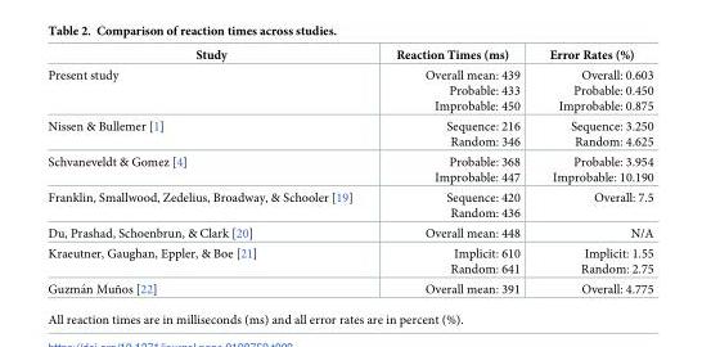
<table><thead><tr><td>Study</td><td>Reaction Times (ms)</td><td>Error Rates (%)</td></tr></thead><tbody><tr><td>Present study</td><td>Overall mean: 439 Probable: 433 Improbable: 450</td><td>Overall: 0.603 Probable: 0.450 Improbable: 0.875</td></tr><tr><td>Nissen &amp; Bullemer [1]</td><td>Sequence: 216 Random: 346</td><td>Sequence: 3.250 Random: 4.625</td></tr><tr><td>Schvaneveldt &amp; Gomez [4]</td><td>Probable: 368 Improbable: 447</td><td>Probable: 3.954 Improbable: 10.190</td></tr><tr><td>Franklin, Smallwood, Zedelius, Broadway, &amp; Schooler [19]</td><td>Sequence: 420 Random: 436</td><td>Overall: 7.5</td></tr><tr><td>Du, Prashad, Schoenbrun, &amp; Clark [20]</td><td>Overall mean: 448</td><td>N/A</td></tr><tr><td>Kraeutner, Gaughan, Eppler, &amp; Boe [21]</td><td>Implicit: 610 Random: 641</td><td>Implicit: 1.55 Random: 2.75</td></tr><tr><td>Guzma´n Muños [22]</td><td>Overall mean: 391</td><td>Overall: 4.775</td></tr></tbody></table>